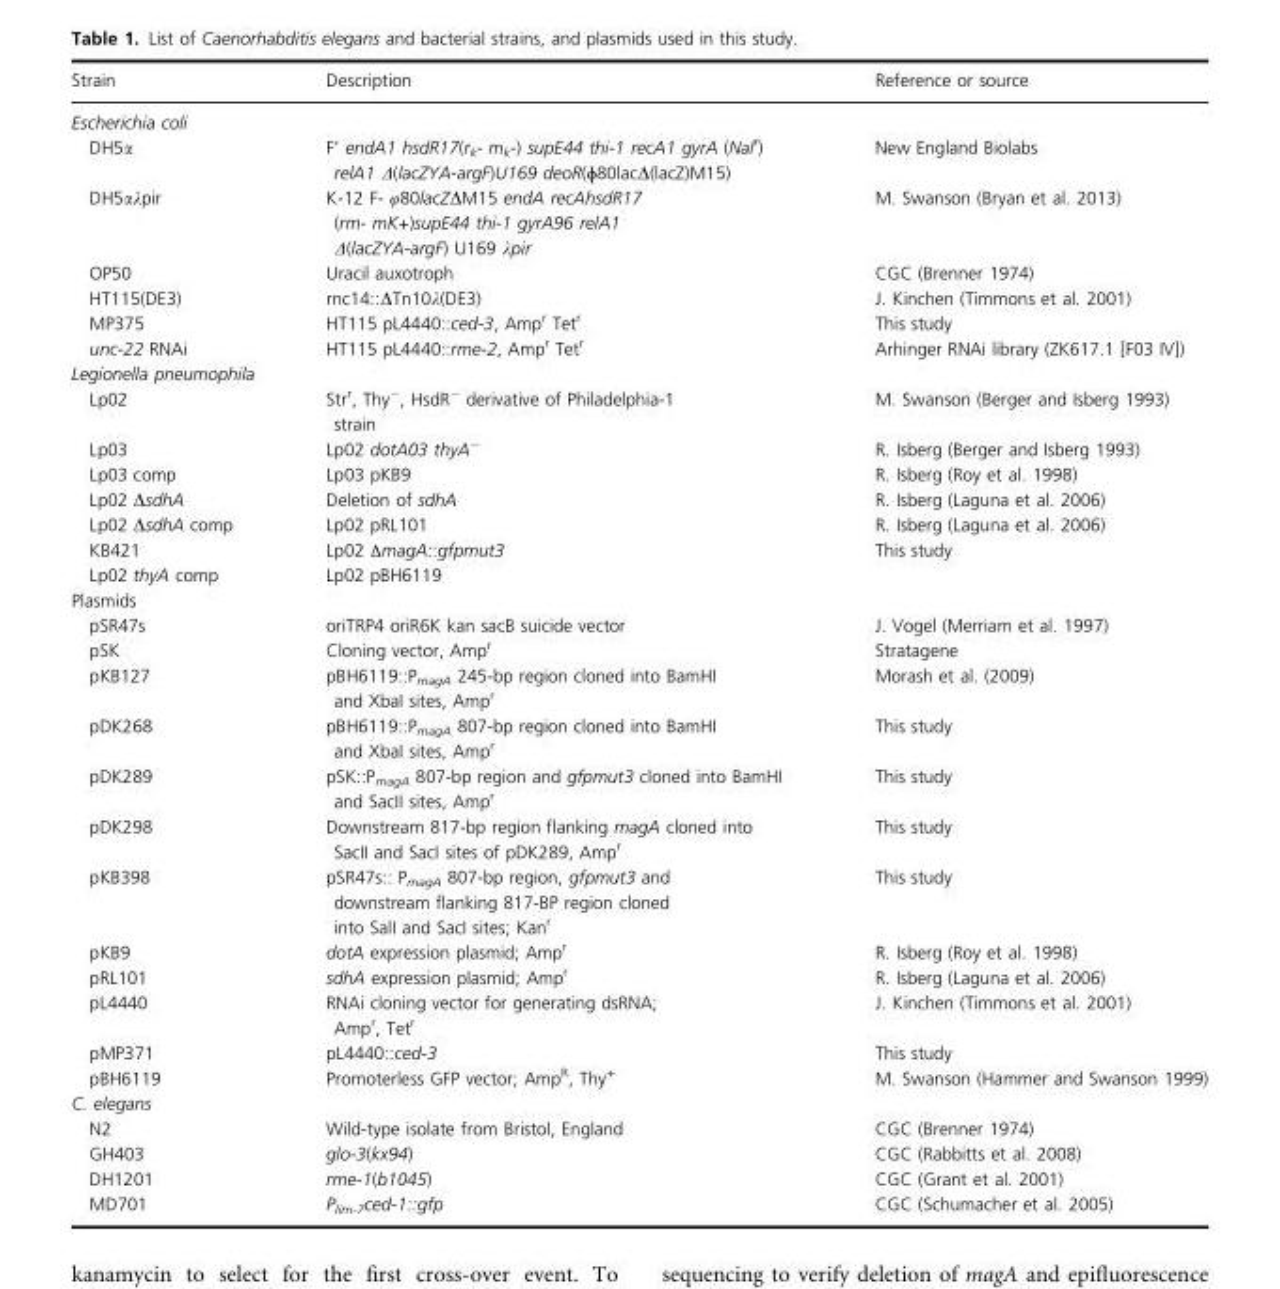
<table><thead><tr><td>Strain</td><td>Description</td><td>Reference or source</td></tr></thead><tbody><tr><td colspan="3">Escherichia coli</td></tr><tr><td>DH5α</td><td>F’ endA1 hsdR17(r<sub>k</sub>- m<sub>k</sub>-) supE44 thi-1 recA1 gyrA (Nal<sup>r</sup>) relA1 Δ(lacZYA-argF)U169 deoR(ɸ80lacΔ(lacZ)M15)</td><td>New England Biolabs</td></tr><tr><td>DH5αλpir</td><td>K-12 F- φ80lacZΔM15 endA recAhsdR17 (rm- mK+)supE44 thi-1 gyrA96 relA1 Δ(lacZYA-argF) U169 λpir</td><td>M. Swanson (Bryan et al. 2013)</td></tr><tr><td>OP50</td><td>Uracil auxotroph</td><td>CGC (Brenner 1974)</td></tr><tr><td>HT115(DE3)</td><td>rnc14::ΔTn10λ(DE3)</td><td>J. Kinchen (Timmons et al. 2001)</td></tr><tr><td>MP375</td><td>HT115 pL4440::ced-3, Amp<sup>r</sup> Tet<sup>r</sup></td><td>This study</td></tr><tr><td>unc-22 RNAi</td><td>HT115 pL4440::rme-2, Amp<sup>r</sup> Tet<sup>r</sup></td><td>Arhinger RNAi library (ZK617.1 [F03 IV])</td></tr><tr><td colspan="3">Legionella pneumophila</td></tr><tr><td>Lp02</td><td>Str<sup>r</sup>, Thy<sup>−</sup>, HsdR<sup>−</sup> derivative of Philadelphia-1 strain</td><td>M. Swanson (Berger and Isberg 1993)</td></tr><tr><td>Lp03</td><td>Lp02 dotA03 thyA<sup>−</sup></td><td>R. Isberg (Berger and Isberg 1993)</td></tr><tr><td>Lp03 comp</td><td>Lp03 pKB9</td><td>R. Isberg (Roy et al. 1998)</td></tr><tr><td>Lp02 ΔsdhA</td><td>Deletion of sdhA</td><td>R. Isberg (Laguna et al. 2006)</td></tr><tr><td>Lp02 ΔsdhA comp</td><td>Lp02 pRL101</td><td>R. Isberg (Laguna et al. 2006)</td></tr><tr><td>KB421</td><td>Lp02 ΔmagA::gfpmut3</td><td>This study</td></tr><tr><td>Lp02 thyA comp</td><td>Lp02 pBH6119</td><td></td></tr><tr><td colspan="3">Plasmids</td></tr><tr><td>pSR47s</td><td>oriTRP4 oriR6K kan sacB suicide vector</td><td>J. Vogel (Merriam et al. 1997)</td></tr><tr><td>pSK</td><td>Cloning vector, Amp<sup>r</sup></td><td>Stratagene</td></tr><tr><td>pKB127</td><td>pBH6119::P<sub>magA</sub> 245-bp region cloned into BamHI and XbaI sites, Amp<sup>r</sup></td><td>Morash et al. (2009)</td></tr><tr><td>pDK268</td><td>pBH6119::P<sub>magA</sub> 807-bp region cloned into BamHI and XbaI sites, Amp<sup>r</sup></td><td>This study</td></tr><tr><td>pDK289</td><td>pSK::P<sub>magA</sub> 807-bp region and gfpmut3 cloned into BamHI and SacII sites, Amp<sup>r</sup></td><td>This study</td></tr><tr><td>pDK298</td><td>Downstream 817-bp region flanking magA cloned into SacII and SacI sites of pDK289, Amp<sup>r</sup></td><td>This study</td></tr><tr><td>pKB398</td><td>pSR47s:: P<sub>magA</sub> 807-bp region, gfpmut3 and downstream flanking 817-BP region cloned into SalI and SacI sites; Kan<sup>r</sup></td><td>This study</td></tr><tr><td>pKB9</td><td>dotA expression plasmid; Amp<sup>r</sup></td><td>R. Isberg (Roy et al. 1998)</td></tr><tr><td>pRL101</td><td>sdhA expression plasmid; Amp<sup>r</sup></td><td>R. Isberg (Laguna et al. 2006)</td></tr><tr><td>pL4440</td><td>RNAi cloning vector for generating dsRNA; Amp<sup>r</sup>, Tet<sup>r</sup></td><td>J. Kinchen (Timmons et al. 2001)</td></tr><tr><td>pMP371</td><td>pL4440::ced-3</td><td>This study</td></tr><tr><td>pBH6119</td><td>Promoterless GFP vector; Amp<sup>R</sup>, Thy<sup>+</sup></td><td>M. Swanson (Hammer and Swanson 1999)</td></tr><tr><td colspan="3">C. elegans</td></tr><tr><td>N2</td><td>Wild-type isolate from Bristol, England</td><td>CGC (Brenner 1974)</td></tr><tr><td>GH403</td><td>glo-3(kx94)</td><td>CGC (Rabbitts et al. 2008)</td></tr><tr><td>DH1201</td><td>rme-1(b1045)</td><td>CGC (Grant et al. 2001)</td></tr><tr><td>MD701</td><td>P<sub>lim-7</sub>ced-1::gfp</td><td>CGC (Schumacher et al. 2005)</td></tr></tbody></table>